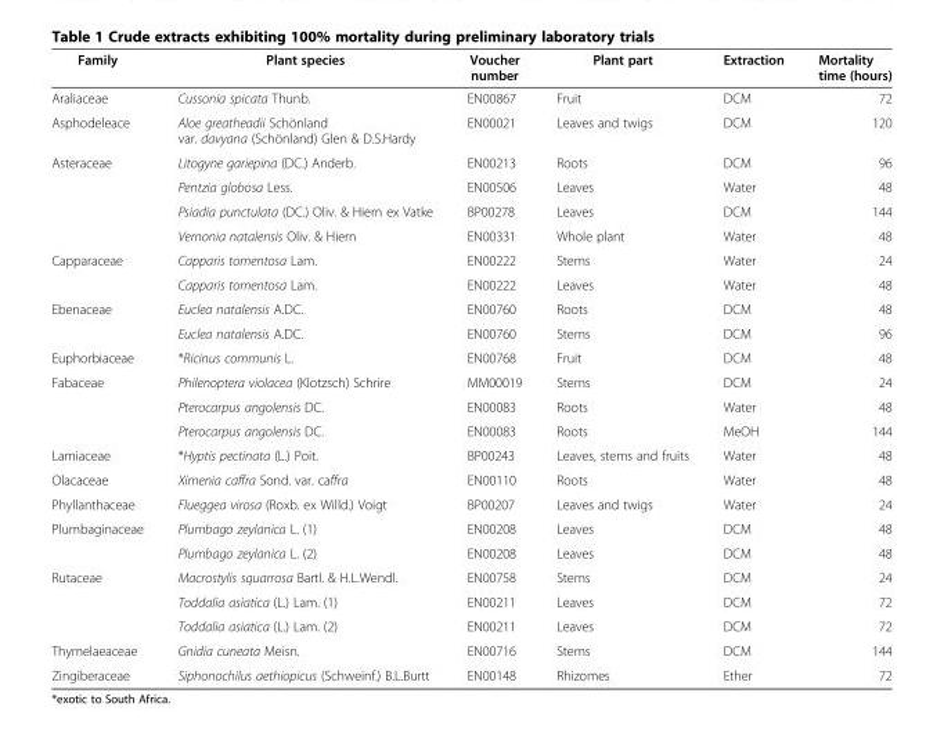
<table><thead><tr><td>Family</td><td>Plant species</td><td>Voucher number</td><td>Plant part</td><td>Extraction</td><td>Mortality time (hours)</td></tr></thead><tbody><tr><td>Araliaceae</td><td>Cussonia spicata Thunb.</td><td>EN00867</td><td>Fruit</td><td>DCM</td><td>72</td></tr><tr><td>Asphodeleace</td><td>Aloe greatheadii Schönland var. davyana (Schönland) Glen &amp; D.S.Hardy</td><td>EN00021</td><td>Leaves and twigs</td><td>DCM</td><td>120</td></tr><tr><td rowspan="4">Asteraceae</td><td>Litogyne gariepina (DC.) Anderb.</td><td>EN00213</td><td>Roots</td><td>DCM</td><td>96</td></tr><tr><td>Pentzia globosa Less.</td><td>EN00506</td><td>Leaves</td><td>Water</td><td>48</td></tr><tr><td>Psiadia punctulata (DC.) Oliv. &amp; Hiern ex Vatke</td><td>BP00278</td><td>Leaves</td><td>DCM</td><td>144</td></tr><tr><td>Vernonia natalensis Oliv. &amp; Hiern</td><td>EN00331</td><td>Whole plant</td><td>Water</td><td>48</td></tr><tr><td rowspan="2">Capparaceae</td><td>Capparis tomentosa Lam.</td><td>EN00222</td><td>Stems</td><td>Water</td><td>24</td></tr><tr><td>Capparis tomentosa Lam.</td><td>EN00222</td><td>Leaves</td><td>Water</td><td>48</td></tr><tr><td rowspan="2">Ebenaceae</td><td>Euclea natalensis A.DC.</td><td>EN00760</td><td>Roots</td><td>DCM</td><td>48</td></tr><tr><td>Euclea natalensis A.DC.</td><td>EN00760</td><td>Stems</td><td>DCM</td><td>96</td></tr><tr><td>Euphorbiaceae</td><td>*Ricinus communis L.</td><td>EN00768</td><td>Fruit</td><td>DCM</td><td>48</td></tr><tr><td rowspan="3">Fabaceae</td><td>Philenoptera violacea (Klotzsch) Schrire</td><td>MM00019</td><td>Stems</td><td>DCM</td><td>24</td></tr><tr><td>Pterocarpus angolensis DC.</td><td>EN00083</td><td>Roots</td><td>Water</td><td>48</td></tr><tr><td>Pterocarpus angolensis DC.</td><td>EN00083</td><td>Roots</td><td>MeOH</td><td>144</td></tr><tr><td>Lamiaceae</td><td>*Hyptis pectinata (L.) Poit.</td><td>BP00243</td><td>Leaves, stems and fruits</td><td>Water</td><td>48</td></tr><tr><td>Olacaceae</td><td>Ximenia caffra Sond. var. caffra</td><td>EN00110</td><td>Roots</td><td>Water</td><td>48</td></tr><tr><td>Phyllanthaceae</td><td>Flueggea virosa (Roxb. ex Willd.) Voigt</td><td>BP00207</td><td>Leaves and twigs</td><td>Water</td><td>24</td></tr><tr><td rowspan="2">Plumbaginaceae</td><td>Plumbago zeylanica L. (1)</td><td>EN00208</td><td>Leaves</td><td>DCM</td><td>48</td></tr><tr><td>Plumbago zeylanica L. (2)</td><td>EN00208</td><td>Leaves</td><td>DCM</td><td>48</td></tr><tr><td rowspan="3">Rutaceae</td><td>Macrostylis squarrosa Bartl. &amp; H.L.Wendl.</td><td>EN00758</td><td>Stems</td><td>DCM</td><td>24</td></tr><tr><td>Toddalia asiatica (L.) Lam. (1)</td><td>EN00211</td><td>Leaves</td><td>DCM</td><td>72</td></tr><tr><td>Toddalia asiatica (L.) Lam. (2)</td><td>EN00211</td><td>Leaves</td><td>DCM</td><td>72</td></tr><tr><td>Thymelaeaceae</td><td>Gnidia cuneata Meisn.</td><td>EN00716</td><td>Stems</td><td>DCM</td><td>144</td></tr><tr><td>Zingiberaceae</td><td>Siphonochilus aethiopicus (Schweinf.) B.L.Burtt</td><td>EN00148</td><td>Rhizomes</td><td>Ether</td><td>72</td></tr></tbody></table>